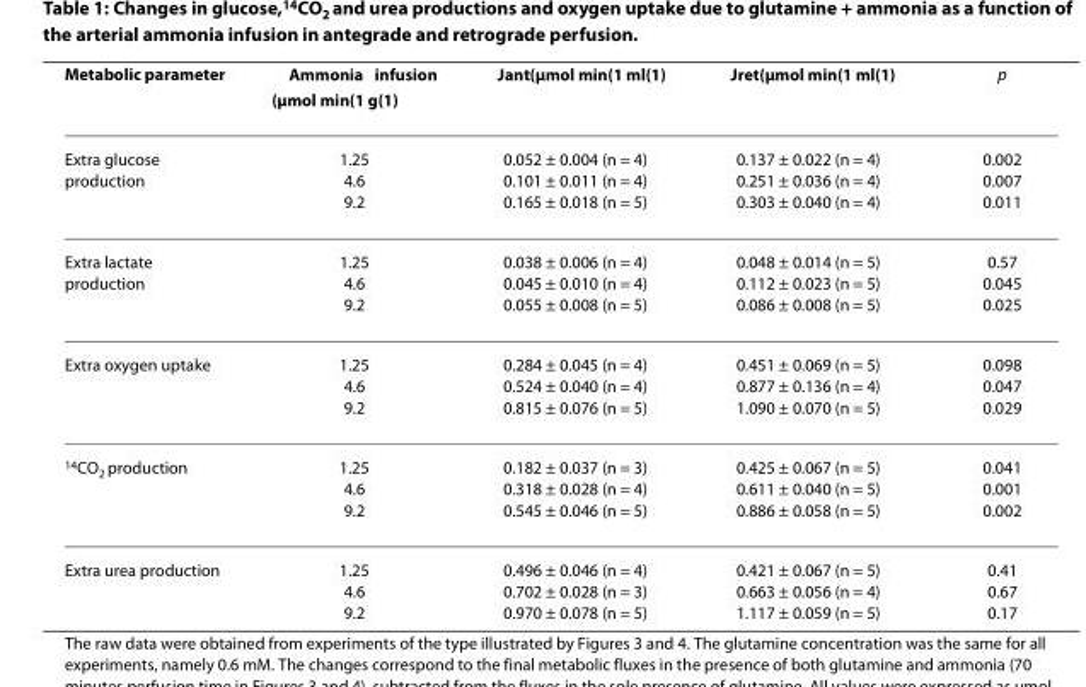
<table><thead><tr><td>Metabolic parameter</td><td>Ammonia infusion (μmol min<sup>(1</sup> g<sup>(1</sup>)</td><td>J<sub>ant</sub>(μmol min<sup>(1</sup> ml<sup>(1</sup>)</td><td>J<sub>ret</sub>(μmol min<sup>(1</sup> ml<sup>(1</sup>)</td><td>p</td></tr></thead><tbody><tr><td>Extra glucose production</td><td>1.25 4.6 9.2</td><td>0.052 ± 0.004 (n = 4) 0.101 ± 0.011 (n = 4) 0.165 ± 0.018 (n = 5)</td><td>0.137 ± 0.022 (n = 4) 0.251 ± 0.036 (n = 4) 0.303 ± 0.040 (n = 4)</td><td>0.002 0.007 0.011</td></tr><tr><td>Extra lactate production</td><td>1.25 4.6 9.2</td><td>0.038 ± 0.006 (n = 4) 0.045 ± 0.010 (n = 4) 0.055 ± 0.008 (n = 5)</td><td>0.048 ± 0.014 (n = 5) 0.112 ± 0.023 (n = 5) 0.086 ± 0.008 (n = 5)</td><td>0.57 0.045 0.025</td></tr><tr><td>Extra oxygen uptake</td><td>1.25 4.6 9.2</td><td>0.284 ± 0.045 (n = 4) 0.524 ± 0.040 (n = 4) 0.815 ± 0.076 (n = 5)</td><td>0.451 ± 0.069 (n = 5) 0.877 ± 0.136 (n = 4) 1.090 ± 0.070 (n = 5)</td><td>0.098 0.047 0.029</td></tr><tr><td><sup>14</sup>CO<sub>2</sub> production</td><td>1.25 4.6 9.2</td><td>0.182 ± 0.037 (n = 3) 0.318 ± 0.028 (n = 4) 0.545 ± 0.046 (n = 5)</td><td>0.425 ± 0.067 (n = 5) 0.611 ± 0.040 (n = 5) 0.886 ± 0.058 (n = 5)</td><td>0.041 0.001 0.002</td></tr><tr><td>Extra urea production</td><td>1.25 4.6 9.2</td><td>0.496 ± 0.046 (n = 4) 0.702 ± 0.028 (n = 3) 0.970 ± 0.078 (n = 5)</td><td>0.421 ± 0.067 (n = 5) 0.663 ± 0.056 (n = 4) 1.117 ± 0.059 (n = 5)</td><td>0.41 0.67 0.17</td></tr></tbody></table>